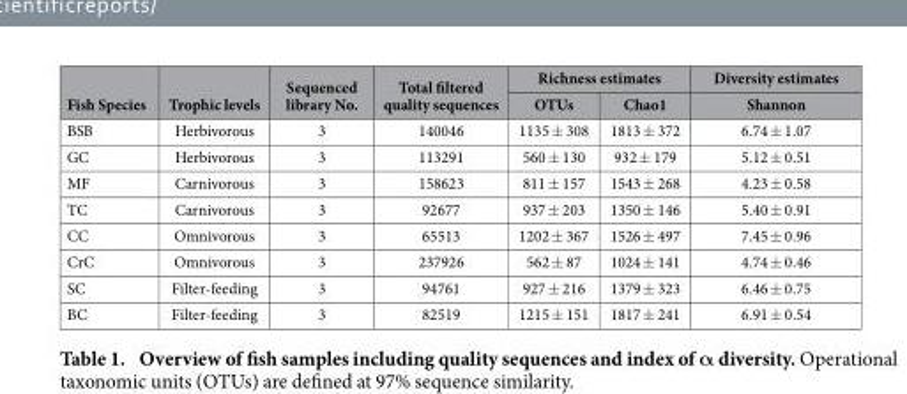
<table><thead><tr><td rowspan="2">Fish Species</td><td rowspan="2">Trophic levels</td><td rowspan="2">Sequenced library No.</td><td rowspan="2">Total filtered quality sequences</td><td colspan="2">Richness estimates</td><td rowspan="2">Diversity estimates Shannon</td></tr><tr><td>OTUs</td><td>Chao1</td></tr></thead><tbody><tr><td>BSB</td><td>Herbivorous</td><td>3</td><td>140046</td><td>1135 ± 308</td><td>1813 ± 372</td><td>6.74 ± 1.07</td></tr><tr><td>GC</td><td>Herbivorous</td><td>3</td><td>113291</td><td>560 ± 130</td><td>932 ± 179</td><td>5.12 ± 0.51</td></tr><tr><td>MF</td><td>Carnivorous</td><td>3</td><td>158623</td><td>811 ± 157</td><td>1543 ± 268</td><td>4.23 ± 0.58</td></tr><tr><td>TC</td><td>Carnivorous</td><td>3</td><td>92677</td><td>937 ± 203</td><td>1350 ± 146</td><td>5.40 ± 0.91</td></tr><tr><td>CC</td><td>Omnivorous</td><td>3</td><td>65513</td><td>1202 ± 367</td><td>1526 ± 497</td><td>7.45 ± 0.96</td></tr><tr><td>CrC</td><td>Omnivorous</td><td>3</td><td>237926</td><td>562 ± 87</td><td>1024 ± 141</td><td>4.74 ± 0.46</td></tr><tr><td>SC</td><td>Filter-feeding</td><td>3</td><td>94761</td><td>927 ± 216</td><td>1379 ± 323</td><td>6.46 ± 0.75</td></tr><tr><td>BC</td><td>Filter-feeding</td><td>3</td><td>82519</td><td>1215 ± 151</td><td>1817 ± 241</td><td>6.91 ± 0.54</td></tr></tbody></table>